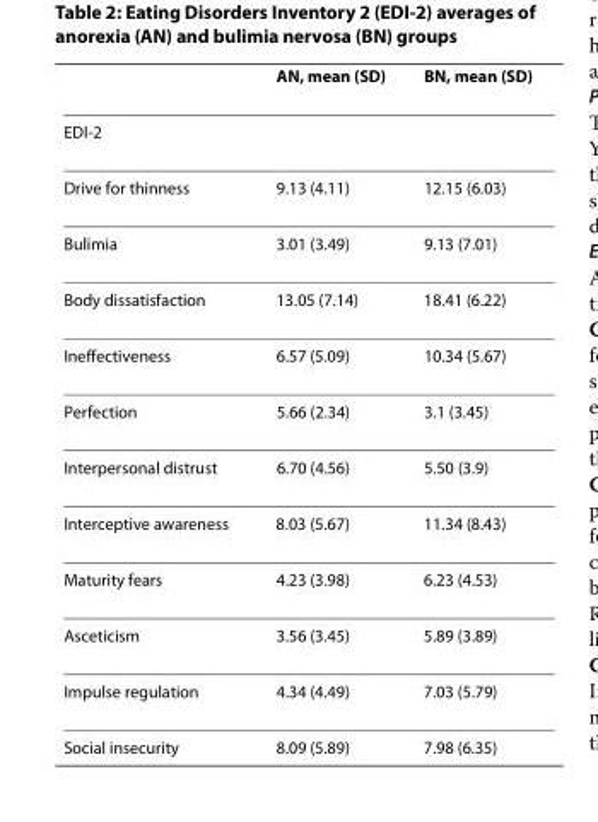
<table><thead><tr><td></td><td>AN, mean (SD)</td><td>BN, mean (SD)</td></tr></thead><tbody><tr><td colspan="3">EDI-2</td></tr><tr><td>Drive for thinness</td><td>9.13 (4.11)</td><td>12.15 (6.03)</td></tr><tr><td>Bulimia</td><td>3.01 (3.49)</td><td>9.13 (7.01)</td></tr><tr><td>Body dissatisfaction</td><td>13.05 (7.14)</td><td>18.41 (6.22)</td></tr><tr><td>Ineffectiveness</td><td>6.57 (5.09)</td><td>10.34 (5.67)</td></tr><tr><td>Perfection</td><td>5.66 (2.34)</td><td>3.1 (3.45)</td></tr><tr><td>Interpersonal distrust</td><td>6.70 (4.56)</td><td>5.50 (3.9)</td></tr><tr><td>Interceptive awareness</td><td>8.03 (5.67)</td><td>11.34 (8.43)</td></tr><tr><td>Maturity fears</td><td>4.23 (3.98)</td><td>6.23 (4.53)</td></tr><tr><td>Asceticism</td><td>3.56 (3.45)</td><td>5.89 (3.89)</td></tr><tr><td>Impulse regulation</td><td>4.34 (4.49)</td><td>7.03 (5.79)</td></tr><tr><td>Social insecurity</td><td>8.09 (5.89)</td><td>7.98 (6.35)</td></tr></tbody></table>